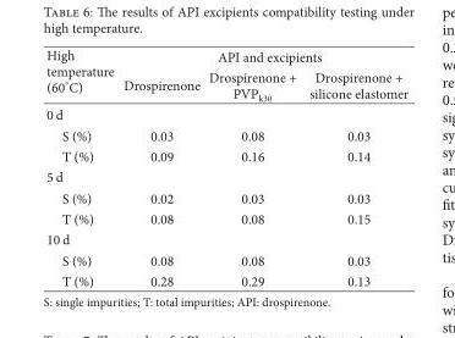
<table><thead><tr><td rowspan="2">High temperature (60∘C)</td><td colspan="3">API and excipients</td></tr><tr><td>Drospirenone</td><td>Drospirenone + PVP<sub>k30</sub></td><td>Drospirenone + silicone elastomer</td></tr></thead><tbody><tr><td colspan="4">0 d</td></tr><tr><td>S (%)</td><td>0.03</td><td>0.08</td><td>0.03</td></tr><tr><td>T (%)</td><td>0.09</td><td>0.16</td><td>0.14</td></tr><tr><td colspan="4">5 d</td></tr><tr><td>S (%)</td><td>0.02</td><td>0.03</td><td>0.03</td></tr><tr><td>T (%)</td><td>0.08</td><td>0.08</td><td>0.15</td></tr><tr><td colspan="4">10 d</td></tr><tr><td>S (%)</td><td>0.08</td><td>0.08</td><td>0.03</td></tr><tr><td>T (%)</td><td>0.28</td><td>0.29</td><td>0.13</td></tr></tbody></table>